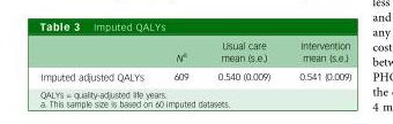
<table><thead><tr><td></td><td>N<sup>a</sup></td><td>Usual care mean (s.e.)</td><td>Intervention mean (s.e.)</td></tr></thead><tbody><tr><td>Imputed adjusted QALYs</td><td>609</td><td>0.540 (0.009)</td><td>0.541 (0.009)</td></tr></tbody></table>